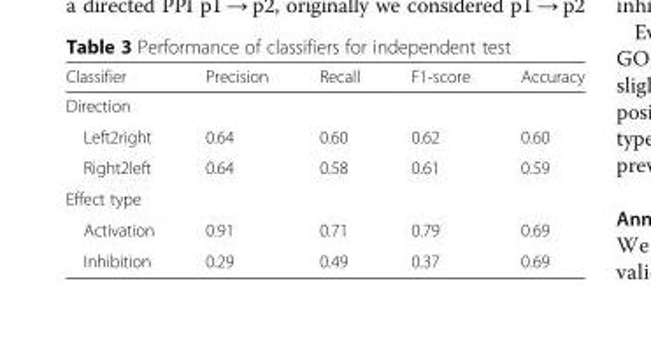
<table><thead><tr><td>Classifier</td><td>Precision</td><td>Recall</td><td>F1-score</td><td>Accuracy</td></tr></thead><tbody><tr><td colspan="5">Direction</td></tr><tr><td>Left2right</td><td>0.64</td><td>0.60</td><td>0.62</td><td>0.60</td></tr><tr><td>Right2left</td><td>0.64</td><td>0.58</td><td>0.61</td><td>0.59</td></tr><tr><td colspan="5">Effect type</td></tr><tr><td>Activation</td><td>0.91</td><td>0.71</td><td>0.79</td><td>0.69</td></tr><tr><td>Inhibition</td><td>0.29</td><td>0.49</td><td>0.37</td><td>0.69</td></tr></tbody></table>